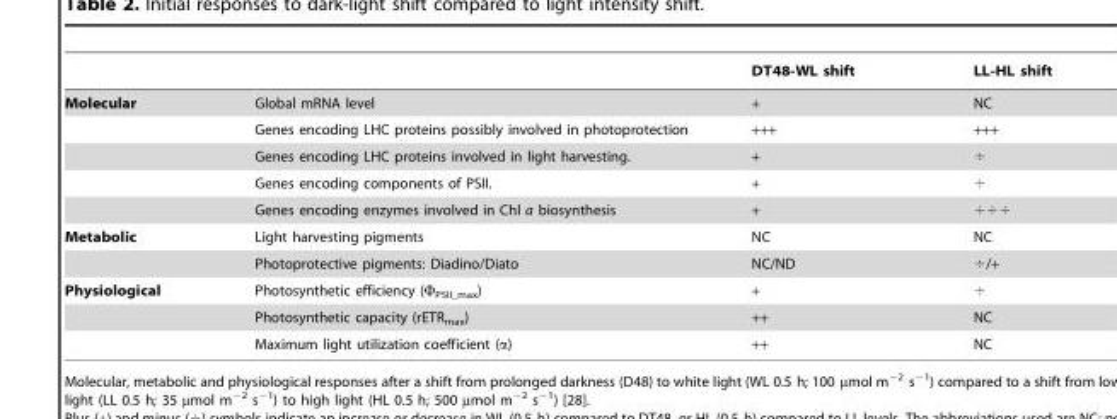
<table><thead><tr><td></td><td></td><td>DT48-WL shift</td><td>LL-HL shift</td></tr></thead><tbody><tr><td rowspan="5">Molecular</td><td>Global mRNA level</td><td>+</td><td>NC</td></tr><tr><td>Genes encoding LHC proteins possibly involved in photoprotection</td><td>+++</td><td>+++</td></tr><tr><td>Genes encoding LHC proteins involved in light harvesting.</td><td>+</td><td>÷</td></tr><tr><td>Genes encoding components of PSII.</td><td>+</td><td>÷</td></tr><tr><td>Genes encoding enzymes involved in Chl a biosynthesis</td><td>+</td><td>÷÷÷</td></tr><tr><td rowspan="2">Metabolic</td><td>Light harvesting pigments</td><td>NC</td><td>NC</td></tr><tr><td>Photoprotective pigments: Diadino/Diato</td><td>NC/ND</td><td>÷/+</td></tr><tr><td rowspan="3">Physiological</td><td>Photosynthetic efficiency (Φ<sub>PSII_max</sub>)</td><td>+</td><td>÷</td></tr><tr><td>Photosynthetic capacity (rETR<sub>max</sub>)</td><td>++</td><td>NC</td></tr><tr><td>Maximum light utilization coefficient (α)</td><td>++</td><td>NC</td></tr></tbody></table>